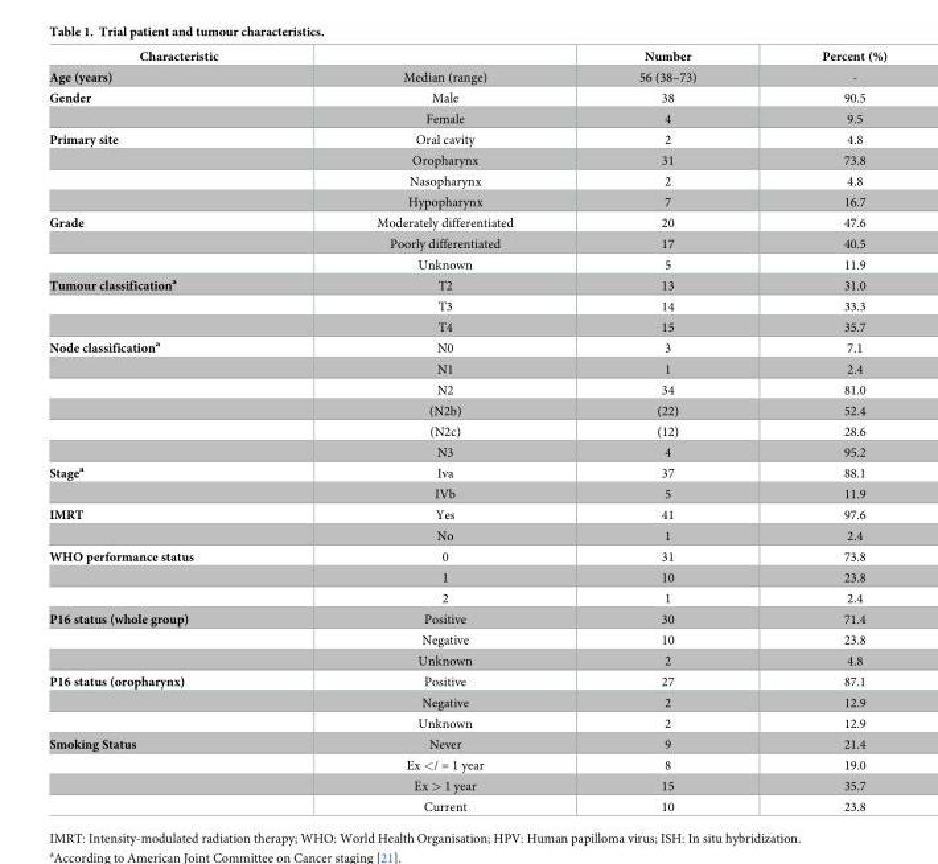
<table><thead><tr><td>Characteristic</td><td></td><td>Number</td><td>Percent (%)</td></tr></thead><tbody><tr><td>Age (years)</td><td>Median (range)</td><td>56 (38–73)</td><td>-</td></tr><tr><td rowspan="2">Gender</td><td>Male</td><td>38</td><td>90.5</td></tr><tr><td>Female</td><td>4</td><td>9.5</td></tr><tr><td rowspan="4">Primary site</td><td>Oral cavity</td><td>2</td><td>4.8</td></tr><tr><td>Oropharynx</td><td>31</td><td>73.8</td></tr><tr><td>Nasopharynx</td><td>2</td><td>4.8</td></tr><tr><td>Hypopharynx</td><td>7</td><td>16.7</td></tr><tr><td rowspan="3">Grade</td><td>Moderately differentiated</td><td>20</td><td>47.6</td></tr><tr><td>Poorly differentiated</td><td>17</td><td>40.5</td></tr><tr><td>Unknown</td><td>5</td><td>11.9</td></tr><tr><td rowspan="3">Tumour classification<sup>a</sup></td><td>T2</td><td>13</td><td>31.0</td></tr><tr><td>T3</td><td>14</td><td>33.3</td></tr><tr><td>T4</td><td>15</td><td>35.7</td></tr><tr><td rowspan="6">Node classification<sup>a</sup></td><td>N0</td><td>3</td><td>7.1</td></tr><tr><td>N1</td><td>1</td><td>2.4</td></tr><tr><td>N2</td><td>34</td><td>81.0</td></tr><tr><td>(N2b)</td><td>(22)</td><td>52.4</td></tr><tr><td>(N2c)</td><td>(12)</td><td>28.6</td></tr><tr><td>N3</td><td>4</td><td>95.2</td></tr><tr><td rowspan="2">Stage<sup>a</sup></td><td>Iva</td><td>37</td><td>88.1</td></tr><tr><td>IVb</td><td>5</td><td>11.9</td></tr><tr><td rowspan="2">IMRT</td><td>Yes</td><td>41</td><td>97.6</td></tr><tr><td>No</td><td>1</td><td>2.4</td></tr><tr><td rowspan="3">WHO performance status</td><td>0</td><td>31</td><td>73.8</td></tr><tr><td>1</td><td>10</td><td>23.8</td></tr><tr><td>2</td><td>1</td><td>2.4</td></tr><tr><td rowspan="3">P16 status (whole group)</td><td>Positive</td><td>30</td><td>71.4</td></tr><tr><td>Negative</td><td>10</td><td>23.8</td></tr><tr><td>Unknown</td><td>2</td><td>4.8</td></tr><tr><td rowspan="3">P16 status (oropharynx)</td><td>Positive</td><td>27</td><td>87.1</td></tr><tr><td>Negative</td><td>2</td><td>12.9</td></tr><tr><td>Unknown</td><td>2</td><td>12.9</td></tr><tr><td rowspan="4">Smoking Status</td><td>Never</td><td>9</td><td>21.4</td></tr><tr><td>Ex &lt;/ = 1 year</td><td>8</td><td>19.0</td></tr><tr><td>Ex &gt; 1 year</td><td>15</td><td>35.7</td></tr><tr><td>Current</td><td>10</td><td>23.8</td></tr></tbody></table>